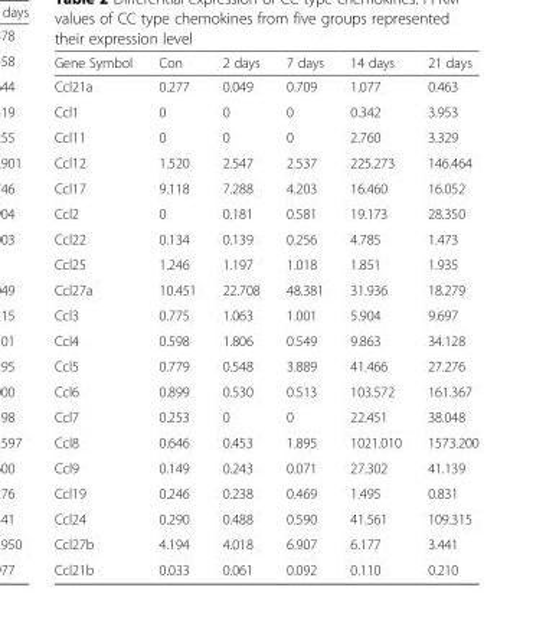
<table><thead><tr><td>Gene Symbol</td><td>Con</td><td>2 days</td><td>7 days</td><td>14 days</td><td>21 days</td></tr></thead><tbody><tr><td>Ccl21a</td><td>0.277</td><td>0.049</td><td>0.709</td><td>1.077</td><td>0.463</td></tr><tr><td>Ccl1</td><td>0</td><td>0</td><td>0</td><td>0.342</td><td>3.953</td></tr><tr><td>Ccl11</td><td>0</td><td>0</td><td>0</td><td>2.760</td><td>3.329</td></tr><tr><td>Ccl12</td><td>1.520</td><td>2.547</td><td>2.537</td><td>225.273</td><td>146.464</td></tr><tr><td>Ccl17</td><td>9.118</td><td>7.288</td><td>4.203</td><td>16.460</td><td>16.052</td></tr><tr><td>Ccl2</td><td>0</td><td>0.181</td><td>0.581</td><td>19.173</td><td>28.350</td></tr><tr><td>Ccl22</td><td>0.134</td><td>0.139</td><td>0.256</td><td>4.785</td><td>1.473</td></tr><tr><td>Ccl25</td><td>1.246</td><td>1.197</td><td>1.018</td><td>1.851</td><td>1.935</td></tr><tr><td>Ccl27a</td><td>10.451</td><td>22.708</td><td>48.381</td><td>31.936</td><td>18.279</td></tr><tr><td>Ccl3</td><td>0.775</td><td>1.063</td><td>1.001</td><td>5.904</td><td>9.697</td></tr><tr><td>Ccl4</td><td>0.598</td><td>1.806</td><td>0.549</td><td>9.863</td><td>34.128</td></tr><tr><td>Ccl5</td><td>0.779</td><td>0.548</td><td>3.889</td><td>41.466</td><td>27.276</td></tr><tr><td>Ccl6</td><td>0.899</td><td>0.530</td><td>0.513</td><td>103.572</td><td>161.367</td></tr><tr><td>Ccl7</td><td>0.253</td><td>0</td><td>0</td><td>22.451</td><td>38.048</td></tr><tr><td>Ccl8</td><td>0.646</td><td>0.453</td><td>1.895</td><td>1021.010</td><td>1573.200</td></tr><tr><td>Ccl9</td><td>0.149</td><td>0.243</td><td>0.071</td><td>27.302</td><td>41.139</td></tr><tr><td>Ccl19</td><td>0.246</td><td>0.238</td><td>0.469</td><td>1.495</td><td>0.831</td></tr><tr><td>Ccl24</td><td>0.290</td><td>0.488</td><td>0.590</td><td>41.561</td><td>109.315</td></tr><tr><td>Ccl27b</td><td>4.194</td><td>4.018</td><td>6.907</td><td>6.177</td><td>3.441</td></tr><tr><td>Ccl21b</td><td>0.033</td><td>0.061</td><td>0.092</td><td>0.110</td><td>0.210</td></tr></tbody></table>